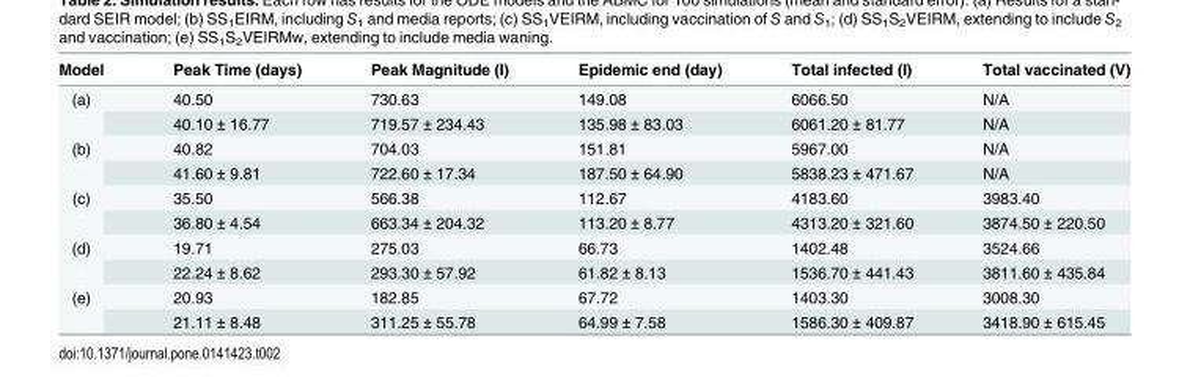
<table><thead><tr><td>Model</td><td>Peak Time (days)</td><td>Peak Magnitude (I)</td><td>Epidemic end (day)</td><td>Total infected (I)</td><td>Total vaccinated (V)</td></tr></thead><tbody><tr><td rowspan="2">(a)</td><td>40.50</td><td>730.63</td><td>149.08</td><td>6066.50</td><td>N/A</td></tr><tr><td>40.10 ± 16.77</td><td>719.57 ± 234.43</td><td>135.98 ± 83.03</td><td>6061.20 ± 81.77</td><td>N/A</td></tr><tr><td rowspan="2">(b)</td><td>40.82</td><td>704.03</td><td>151.81</td><td>5967.00</td><td>N/A</td></tr><tr><td>41.60 ± 9.81</td><td>722.60 ± 17.34</td><td>187.50 ± 64.90</td><td>5838.23 ± 471.67</td><td>N/A</td></tr><tr><td rowspan="2">(c)</td><td>35.50</td><td>566.38</td><td>112.67</td><td>4183.60</td><td>3983.40</td></tr><tr><td>36.80 ± 4.54</td><td>663.34 ± 204.32</td><td>113.20 ± 8.77</td><td>4313.20 ± 321.60</td><td>3874.50 ± 220.50</td></tr><tr><td rowspan="2">(d)</td><td>19.71</td><td>275.03</td><td>66.73</td><td>1402.48</td><td>3524.66</td></tr><tr><td>22.24 ± 8.62</td><td>293.30 ± 57.92</td><td>61.82 ± 8.13</td><td>1536.70 ± 441.43</td><td>3811.60 ± 435.84</td></tr><tr><td rowspan="2">(e)</td><td>20.93</td><td>182.85</td><td>67.72</td><td>1403.30</td><td>3008.30</td></tr><tr><td>21.11 ± 8.48</td><td>311.25 ± 55.78</td><td>64.99 ± 7.58</td><td>1586.30 ± 409.87</td><td>3418.90 ± 615.45</td></tr></tbody></table>